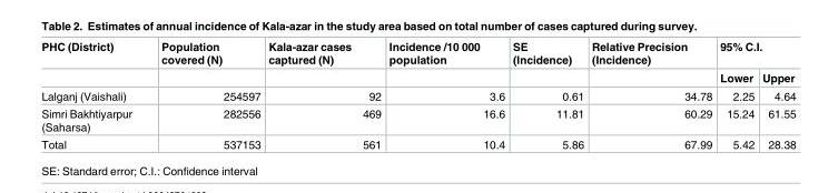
<table><thead><tr><td rowspan="2">PHC (District)</td><td rowspan="2">Population covered (N)</td><td rowspan="2">Kala-azar cases captured (N)</td><td rowspan="2">Incidence /10 000 population</td><td rowspan="2">SE (Incidence)</td><td rowspan="2">Relative Precision (Incidence)</td><td colspan="2">95% C.I.</td></tr><tr><td>Lower</td><td>Upper</td></tr></thead><tbody><tr><td>Lalganj (Vaishali)</td><td>254597</td><td>92</td><td>3.6</td><td>0.61</td><td>34.78</td><td>2.25</td><td>4.64</td></tr><tr><td>Simri Bakhtiyarpur (Saharsa)</td><td>282556</td><td>469</td><td>16.6</td><td>11.81</td><td>60.29</td><td>15.24</td><td>61.55</td></tr><tr><td>Total</td><td>537153</td><td>561</td><td>10.4</td><td>5.86</td><td>67.99</td><td>5.42</td><td>28.38</td></tr></tbody></table>